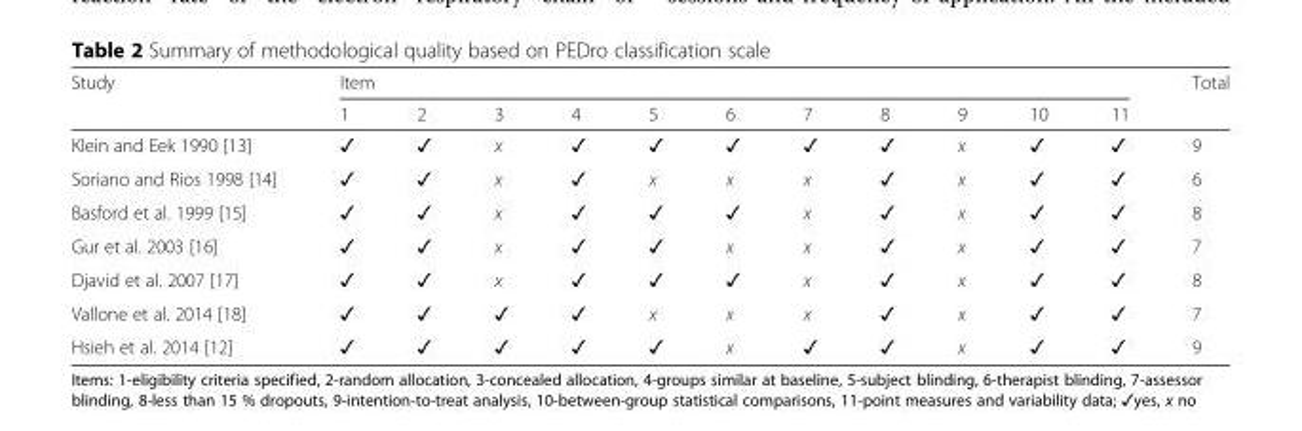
<table><thead><tr><td rowspan="2">Study</td><td colspan="11">Item</td><td rowspan="2">Total</td></tr><tr><td>1</td><td>2</td><td>3</td><td>4</td><td>5</td><td>6</td><td>7</td><td>8</td><td>9</td><td>10</td><td>11</td></tr></thead><tbody><tr><td>Klein and Eek 1990 [13]</td><td>✓</td><td>✓</td><td>x</td><td>✓</td><td>✓</td><td>✓</td><td>✓</td><td>✓</td><td>x</td><td>✓</td><td>✓</td><td>9</td></tr><tr><td>Soriano and Rios 1998 [14]</td><td>✓</td><td>✓</td><td>x</td><td>✓</td><td>x</td><td>x</td><td>x</td><td>✓</td><td>x</td><td>✓</td><td>✓</td><td>6</td></tr><tr><td>Basford et al. 1999 [15]</td><td>✓</td><td>✓</td><td>x</td><td>✓</td><td>✓</td><td>✓</td><td>x</td><td>✓</td><td>x</td><td>✓</td><td>✓</td><td>8</td></tr><tr><td>Gur et al. 2003 [16]</td><td>✓</td><td>✓</td><td>x</td><td>✓</td><td>✓</td><td>x</td><td>x</td><td>✓</td><td>x</td><td>✓</td><td>✓</td><td>7</td></tr><tr><td>Djavid et al. 2007 [17]</td><td>✓</td><td>✓</td><td>x</td><td>✓</td><td>✓</td><td>✓</td><td>x</td><td>✓</td><td>x</td><td>✓</td><td>✓</td><td>8</td></tr><tr><td>Vallone et al. 2014 [18]</td><td>✓</td><td>✓</td><td>✓</td><td>✓</td><td>x</td><td>x</td><td>x</td><td>✓</td><td>x</td><td>✓</td><td>✓</td><td>7</td></tr><tr><td>Hsieh et al. 2014 [12]</td><td>✓</td><td>✓</td><td>✓</td><td>✓</td><td>✓</td><td>x</td><td>✓</td><td>✓</td><td>x</td><td>✓</td><td>✓</td><td>9</td></tr></tbody></table>